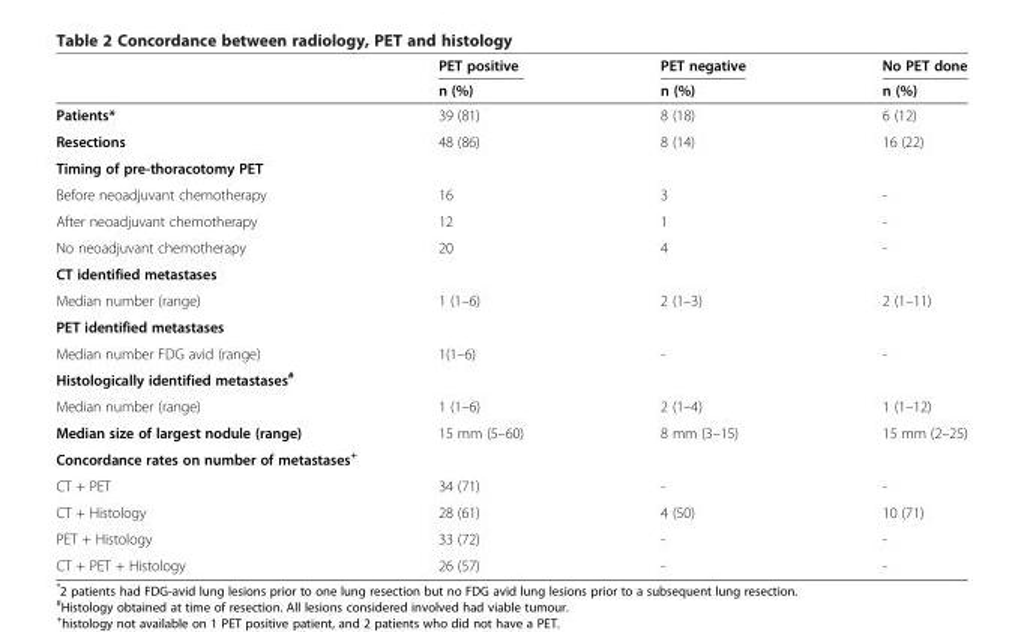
<table><thead><tr><td rowspan="2"></td><td rowspan="2">PET positive n (%)</td><td rowspan="2">PET negative n (%)</td><td rowspan="2">No PET done n (%)</td></tr><tr></tr></thead><tbody><tr><td>Patients*</td><td>39 (81)</td><td>8 (18)</td><td>6 (12)</td></tr><tr><td>Resections</td><td>48 (86)</td><td>8 (14)</td><td>16 (22)</td></tr><tr><td colspan="4">Timing of pre-thoracotomy PET</td></tr><tr><td>Before neoadjuvant chemotherapy</td><td>16</td><td>3</td><td>-</td></tr><tr><td>After neoadjuvant chemotherapy</td><td>12</td><td>1</td><td>-</td></tr><tr><td>No neoadjuvant chemotherapy</td><td>20</td><td>4</td><td>-</td></tr><tr><td colspan="4">CT identified metastases</td></tr><tr><td>Median number (range)</td><td>1 (1–6)</td><td>2 (1–3)</td><td>2 (1–11)</td></tr><tr><td colspan="4">PET identified metastases</td></tr><tr><td>Median number FDG avid (range)</td><td>1(1–6)</td><td>-</td><td>-</td></tr><tr><td colspan="4">Histologically identified metastases<sup>#</sup></td></tr><tr><td>Median number (range)</td><td>1 (1–6)</td><td>2 (1–4)</td><td>1 (1–12)</td></tr><tr><td>Median size of largest nodule (range)</td><td>15 mm (5–60)</td><td>8 mm (3–15)</td><td>15 mm (2–25)</td></tr><tr><td colspan="4">Concordance rates on number of metastases<sup>+</sup></td></tr><tr><td>CT + PET</td><td>34 (71)</td><td>-</td><td>-</td></tr><tr><td>CT + Histology</td><td>28 (61)</td><td>4 (50)</td><td>10 (71)</td></tr><tr><td>PET + Histology</td><td>33 (72)</td><td>-</td><td>-</td></tr><tr><td>CT + PET + Histology</td><td>26 (57)</td><td>-</td><td>-</td></tr></tbody></table>